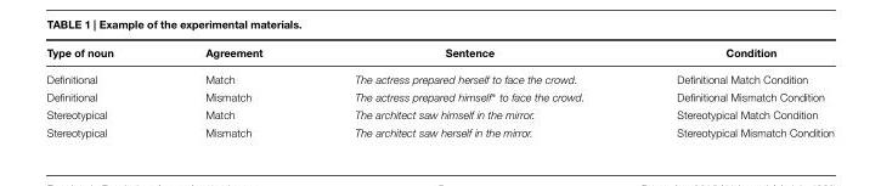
<table><thead><tr><td>Type of noun</td><td>Agreement</td><td>Sentence</td><td>Condition</td></tr></thead><tbody><tr><td>Definitional</td><td>Match</td><td>The actress prepared herself to face the crowd.</td><td>Definitional Match Condition</td></tr><tr><td>Definitional</td><td>Mismatch</td><td>The actress prepared himself∗ to face the crowd.</td><td>Definitional Mismatch Condition</td></tr><tr><td>Stereotypical</td><td>Match</td><td>The architect saw himself in the mirror.</td><td>Stereotypical Match Condition</td></tr><tr><td>Stereotypical</td><td>Mismatch</td><td>The architect saw herself in the mirror.</td><td>Stereotypical Mismatch Condition</td></tr></tbody></table>